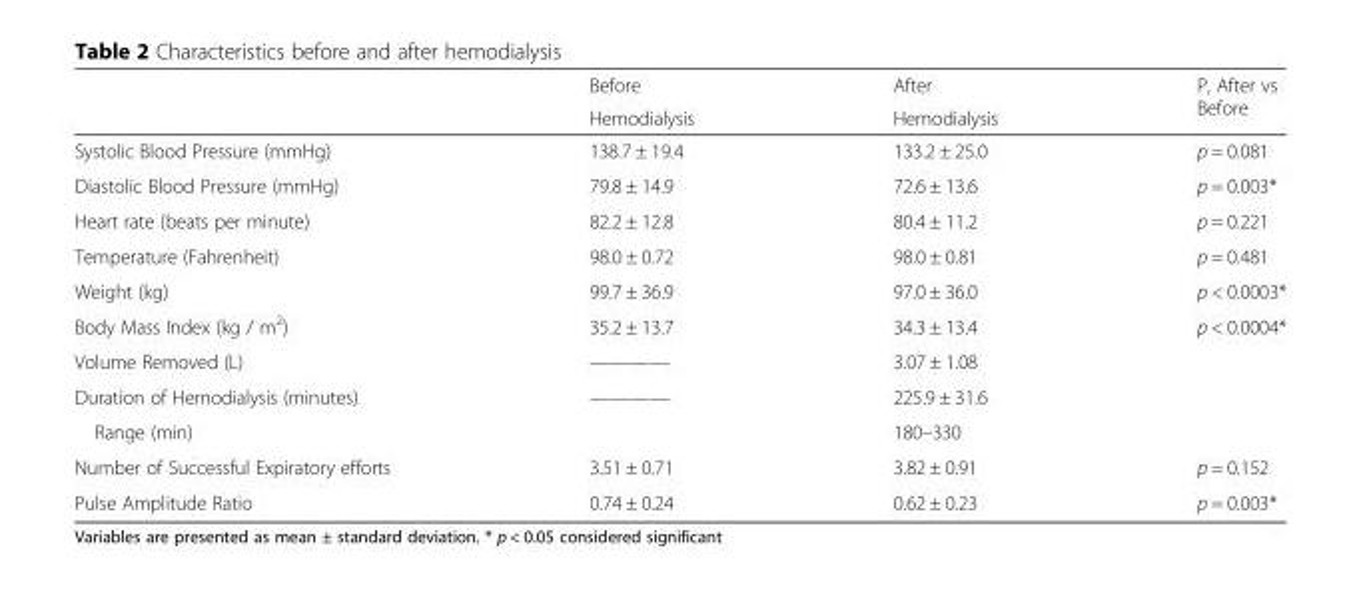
<table><thead><tr><td rowspan="2"></td><td rowspan="2">Before Hemodialysis</td><td rowspan="2">After Hemodialysis</td><td rowspan="2">P, After vs Before</td></tr><tr></tr></thead><tbody><tr><td>Systolic Blood Pressure (mmHg)</td><td>138.7 ± 19.4</td><td>133.2 ± 25.0</td><td>p = 0.081</td></tr><tr><td>Diastolic Blood Pressure (mmHg)</td><td>79.8 ± 14.9</td><td>72.6 ± 13.6</td><td>p = 0.003*</td></tr><tr><td>Heart rate (beats per minute)</td><td>82.2 ± 12.8</td><td>80.4 ± 11.2</td><td>p = 0.221</td></tr><tr><td>Temperature (Fahrenheit)</td><td>98.0 ± 0.72</td><td>98.0 ± 0.81</td><td>p = 0.481</td></tr><tr><td>Weight (kg)</td><td>99.7 ± 36.9</td><td>97.0 ± 36.0</td><td>p &lt; 0.0003*</td></tr><tr><td>Body Mass Index (kg / m<sup>2</sup>)</td><td>35.2 ± 13.7</td><td>34.3 ± 13.4</td><td>p &lt; 0.0004*</td></tr><tr><td>Volume Removed (L)</td><td>————</td><td>3.07 ± 1.08</td><td></td></tr><tr><td>Duration of Hemodialysis (minutes)</td><td>————</td><td>225.9 ± 31.6</td><td></td></tr><tr><td>Range (min)</td><td></td><td>180–330</td><td></td></tr><tr><td>Number of Successful Expiratory efforts</td><td>3.51 ± 0.71</td><td>3.82 ± 0.91</td><td>p = 0.152</td></tr><tr><td>Pulse Amplitude Ratio</td><td>0.74 ± 0.24</td><td>0.62 ± 0.23</td><td>p = 0.003*</td></tr></tbody></table>